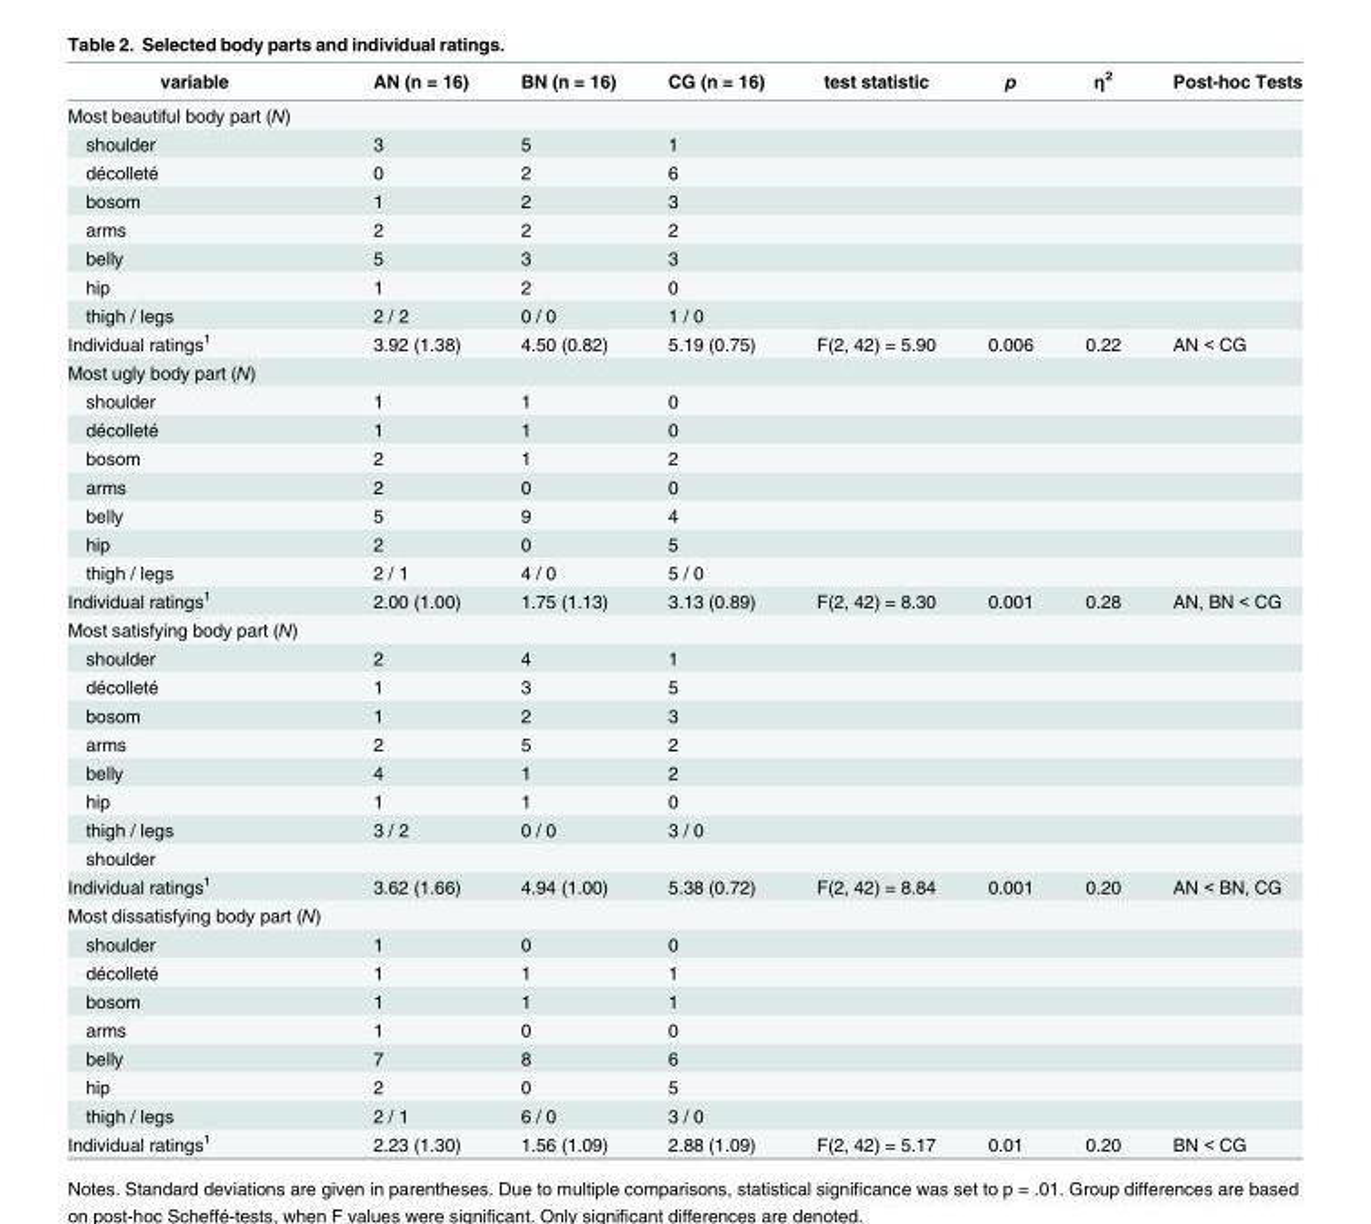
<table><thead><tr><td>variable</td><td>AN (n = 16)</td><td>BN (n = 16)</td><td>CG (n = 16)</td><td>test statistic</td><td>p</td><td>η<sup>2</sup></td><td>Post-hoc Tests</td></tr></thead><tbody><tr><td colspan="8">Most beautiful body part (N)</td></tr><tr><td>shoulder</td><td>3</td><td>5</td><td>1</td><td></td><td></td><td></td><td></td></tr><tr><td>décolleté</td><td>0</td><td>2</td><td>6</td><td></td><td></td><td></td><td></td></tr><tr><td>bosom</td><td>1</td><td>2</td><td>3</td><td></td><td></td><td></td><td></td></tr><tr><td>arms</td><td>2</td><td>2</td><td>2</td><td></td><td></td><td></td><td></td></tr><tr><td>belly</td><td>5</td><td>3</td><td>3</td><td></td><td></td><td></td><td></td></tr><tr><td>hip</td><td>1</td><td>2</td><td>0</td><td></td><td></td><td></td><td></td></tr><tr><td>thigh / legs</td><td>2 / 2</td><td>0 / 0</td><td>1 / 0</td><td></td><td></td><td></td><td></td></tr><tr><td>Individual ratings<sup>1</sup></td><td>3.92 (1.38)</td><td>4.50 (0.82)</td><td>5.19 (0.75)</td><td>F(2, 42) = 5.90</td><td>0.006</td><td>0.22</td><td>AN &lt; CG</td></tr><tr><td colspan="8">Most ugly body part (N)</td></tr><tr><td>shoulder</td><td>1</td><td>1</td><td>0</td><td></td><td></td><td></td><td></td></tr><tr><td>décolleté</td><td>1</td><td>1</td><td>0</td><td></td><td></td><td></td><td></td></tr><tr><td>bosom</td><td>2</td><td>1</td><td>2</td><td></td><td></td><td></td><td></td></tr><tr><td>arms</td><td>2</td><td>0</td><td>0</td><td></td><td></td><td></td><td></td></tr><tr><td>belly</td><td>5</td><td>9</td><td>4</td><td></td><td></td><td></td><td></td></tr><tr><td>hip</td><td>2</td><td>0</td><td>5</td><td></td><td></td><td></td><td></td></tr><tr><td>thigh / legs</td><td>2 / 1</td><td>4 / 0</td><td>5 / 0</td><td></td><td></td><td></td><td></td></tr><tr><td>Individual ratings<sup>1</sup></td><td>2.00 (1.00)</td><td>1.75 (1.13)</td><td>3.13 (0.89)</td><td>F(2, 42) = 8.30</td><td>0.001</td><td>0.28</td><td>AN, BN &lt; CG</td></tr><tr><td colspan="8">Most satisfying body part (N)</td></tr><tr><td>shoulder</td><td>2</td><td>4</td><td>1</td><td></td><td></td><td></td><td></td></tr><tr><td>décolleté</td><td>1</td><td>3</td><td>5</td><td></td><td></td><td></td><td></td></tr><tr><td>bosom</td><td>1</td><td>2</td><td>3</td><td></td><td></td><td></td><td></td></tr><tr><td>arms</td><td>2</td><td>5</td><td>2</td><td></td><td></td><td></td><td></td></tr><tr><td>belly</td><td>4</td><td>1</td><td>2</td><td></td><td></td><td></td><td></td></tr><tr><td>hip</td><td>1</td><td>1</td><td>0</td><td></td><td></td><td></td><td></td></tr><tr><td>thigh / legs</td><td>3 / 2</td><td>0 / 0</td><td>3 / 0</td><td></td><td></td><td></td><td></td></tr><tr><td colspan="8">shoulder</td></tr><tr><td>Individual ratings<sup>1</sup></td><td>3.62 (1.66)</td><td>4.94 (1.00)</td><td>5.38 (0.72)</td><td>F(2, 42) = 8.84</td><td>0.001</td><td>0.20</td><td>AN &lt; BN, CG</td></tr><tr><td colspan="8">Most dissatisfying body part (N)</td></tr><tr><td>shoulder</td><td>1</td><td>0</td><td>0</td><td></td><td></td><td></td><td></td></tr><tr><td>décolleté</td><td>1</td><td>1</td><td>1</td><td></td><td></td><td></td><td></td></tr><tr><td>bosom</td><td>1</td><td>1</td><td>1</td><td></td><td></td><td></td><td></td></tr><tr><td>arms</td><td>1</td><td>0</td><td>0</td><td></td><td></td><td></td><td></td></tr><tr><td>belly</td><td>7</td><td>8</td><td>6</td><td></td><td></td><td></td><td></td></tr><tr><td>hip</td><td>2</td><td>0</td><td>5</td><td></td><td></td><td></td><td></td></tr><tr><td>thigh / legs</td><td>2 / 1</td><td>6 / 0</td><td>3 / 0</td><td></td><td></td><td></td><td></td></tr><tr><td>Individual ratings<sup>1</sup></td><td>2.23 (1.30)</td><td>1.56 (1.09)</td><td>2.88 (1.09)</td><td>F(2, 42) = 5.17</td><td>0.01</td><td>0.20</td><td>BN &lt; CG</td></tr></tbody></table>